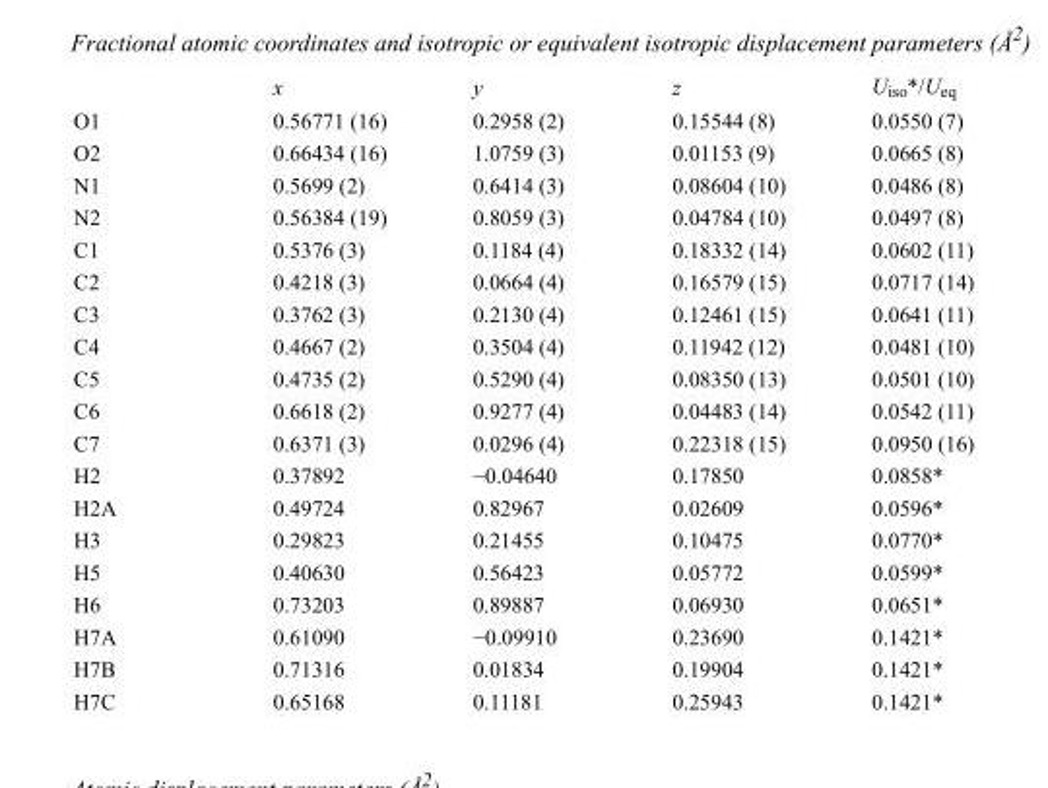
<table><thead><tr><td></td><td>x</td><td>y</td><td>z</td><td>U<sub>iso</sub>*/U<sub>eq</sub></td></tr></thead><tbody><tr><td>O1</td><td>0.56771 (16)</td><td>0.2958 (2)</td><td>0.15544 (8)</td><td>0.0550 (7)</td></tr><tr><td>O2</td><td>0.66434 (16)</td><td>1.0759 (3)</td><td>0.01153 (9)</td><td>0.0665 (8)</td></tr><tr><td>N1</td><td>0.5699 (2)</td><td>0.6414 (3)</td><td>0.08604 (10)</td><td>0.0486 (8)</td></tr><tr><td>N2</td><td>0.56384 (19)</td><td>0.8059 (3)</td><td>0.04784 (10)</td><td>0.0497 (8)</td></tr><tr><td>C1</td><td>0.5376 (3)</td><td>0.1184 (4)</td><td>0.18332 (14)</td><td>0.0602 (11)</td></tr><tr><td>C2</td><td>0.4218 (3)</td><td>0.0664 (4)</td><td>0.16579 (15)</td><td>0.0717 (14)</td></tr><tr><td>C3</td><td>0.3762 (3)</td><td>0.2130 (4)</td><td>0.12461 (15)</td><td>0.0641 (11)</td></tr><tr><td>C4</td><td>0.4667 (2)</td><td>0.3504 (4)</td><td>0.11942 (12)</td><td>0.0481 (10)</td></tr><tr><td>C5</td><td>0.4735 (2)</td><td>0.5290 (4)</td><td>0.08350 (13)</td><td>0.0501 (10)</td></tr><tr><td>C6</td><td>0.6618 (2)</td><td>0.9277 (4)</td><td>0.04483 (14)</td><td>0.0542 (11)</td></tr><tr><td>C7</td><td>0.6371 (3)</td><td>0.0296 (4)</td><td>0.22318 (15)</td><td>0.0950 (16)</td></tr><tr><td>H2</td><td>0.37892</td><td>−0.04640</td><td>0.17850</td><td>0.0858*</td></tr><tr><td>H2A</td><td>0.49724</td><td>0.82967</td><td>0.02609</td><td>0.0596*</td></tr><tr><td>H3</td><td>0.29823</td><td>0.21455</td><td>0.10475</td><td>0.0770*</td></tr><tr><td>H5</td><td>0.40630</td><td>0.56423</td><td>0.05772</td><td>0.0599*</td></tr><tr><td>H6</td><td>0.73203</td><td>0.89887</td><td>0.06930</td><td>0.0651*</td></tr><tr><td>H7A</td><td>0.61090</td><td>−0.09910</td><td>0.23690</td><td>0.1421*</td></tr><tr><td>H7B</td><td>0.71316</td><td>0.01834</td><td>0.19904</td><td>0.1421*</td></tr><tr><td>H7C</td><td>0.65168</td><td>0.11181</td><td>0.25943</td><td>0.1421*</td></tr></tbody></table>